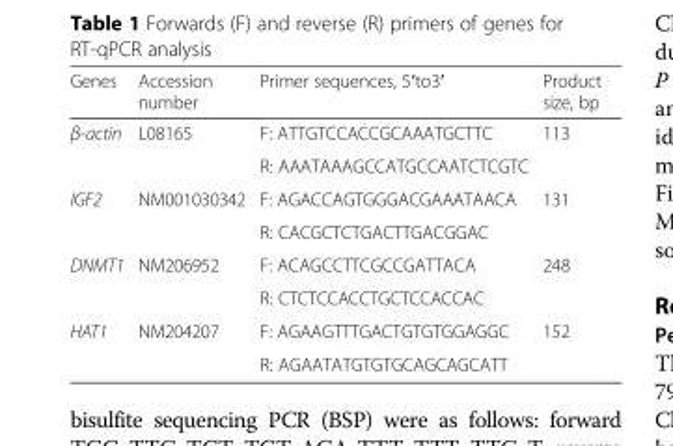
<table><thead><tr><td>Genes</td><td>Accession number</td><td>Primer sequences, 5′to3′</td><td>Product size, bp</td></tr></thead><tbody><tr><td rowspan="2">β-actin</td><td>L08165</td><td>F: ATTGTCCACCGCAAATGCTTC</td><td>113</td></tr><tr><td></td><td>R: AAATAAAGCCATGCCAATCTCGTC</td><td></td></tr><tr><td rowspan="2">IGF2</td><td>NM001030342</td><td>F: AGACCAGTGGGACGAAATAACA</td><td>131</td></tr><tr><td></td><td>R: CACGCTCTGACTTGACGGAC</td><td></td></tr><tr><td rowspan="2">DNMT1</td><td>NM206952</td><td>F: ACAGCCTTCGCCGATTACA</td><td>248</td></tr><tr><td></td><td>R: CTCTCCACCTGCTCCACCAC</td><td></td></tr><tr><td rowspan="2">HAT1</td><td>NM204207</td><td>F: AGAAGTTTGACTGTGTGGAGGC</td><td>152</td></tr><tr><td></td><td>R: AGAATATGTGTGCAGCAGCATT</td><td></td></tr></tbody></table>